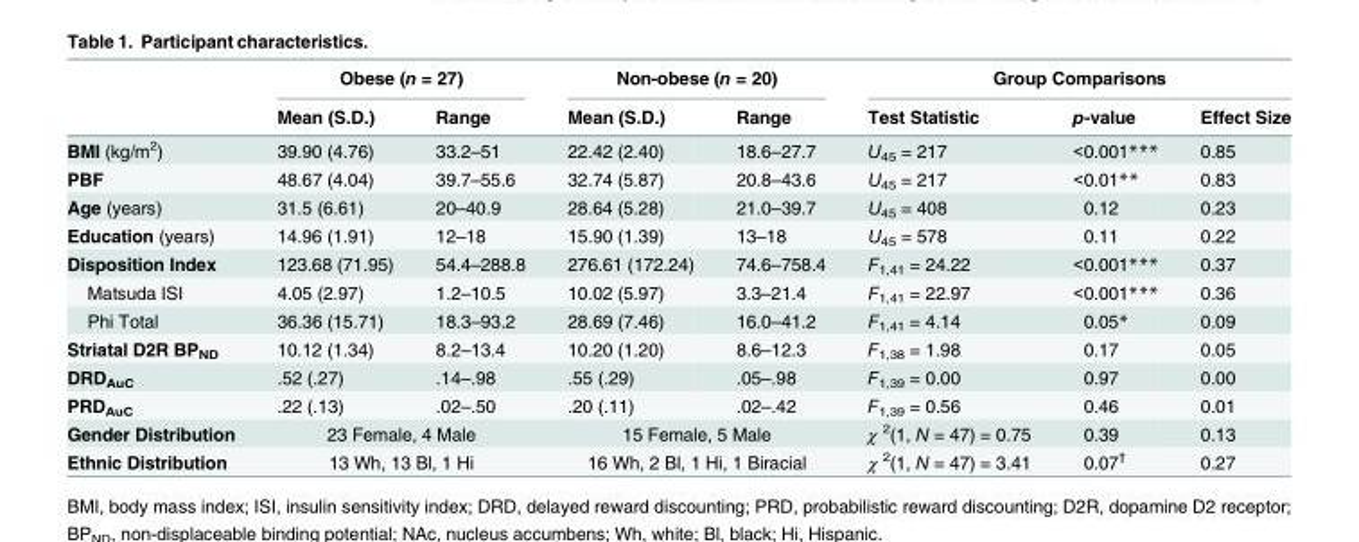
<table><thead><tr><td rowspan="2"></td><td colspan="2">Obese (n = 27)</td><td colspan="2">Non-obese (n = 20)</td><td colspan="3">Group Comparisons</td></tr><tr><td>Mean (S.D.)</td><td>Range</td><td>Mean (S.D.)</td><td>Range</td><td>Test Statistic</td><td>p-value</td><td>Effect Size</td></tr></thead><tbody><tr><td>BMI (kg/m<sup>2</sup>)</td><td>39.90 (4.76)</td><td>33.2–51</td><td>22.42 (2.40)</td><td>18.6–27.7</td><td>U<sub>45</sub> = 217</td><td>&lt;0.001***</td><td>0.85</td></tr><tr><td>PBF</td><td>48.67 (4.04)</td><td>39.7–55.6</td><td>32.74 (5.87)</td><td>20.8–43.6</td><td>U<sub>45</sub> = 217</td><td>&lt;0.01**</td><td>0.83</td></tr><tr><td>Age (years)</td><td>31.5 (6.61)</td><td>20–40.9</td><td>28.64 (5.28)</td><td>21.0–39.7</td><td>U<sub>45</sub> = 408</td><td>0.12</td><td>0.23</td></tr><tr><td>Education (years)</td><td>14.96 (1.91)</td><td>12–18</td><td>15.90 (1.39)</td><td>13–18</td><td>U<sub>45</sub> = 578</td><td>0.11</td><td>0.22</td></tr><tr><td>Disposition Index</td><td>123.68 (71.95)</td><td>54.4–288.8</td><td>276.61 (172.24)</td><td>74.6–758.4</td><td>F<sub>1,41</sub> = 24.22</td><td>&lt;0.001***</td><td>0.37</td></tr><tr><td>Matsuda ISI</td><td>4.05 (2.97)</td><td>1.2–10.5</td><td>10.02 (5.97)</td><td>3.3–21.4</td><td>F<sub>1,41</sub> = 22.97</td><td>&lt;0.001***</td><td>0.36</td></tr><tr><td>Phi Total</td><td>36.36 (15.71)</td><td>18.3–93.2</td><td>28.69 (7.46)</td><td>16.0–41.2</td><td>F<sub>1,41</sub> = 4.14</td><td>0.05*</td><td>0.09</td></tr><tr><td>Striatal D2R BP<sub>ND</sub></td><td>10.12 (1.34)</td><td>8.2–13.4</td><td>10.20 (1.20)</td><td>8.6–12.3</td><td>F<sub>1,38</sub> = 1.98</td><td>0.17</td><td>0.05</td></tr><tr><td>DRD<sub>AuC</sub></td><td>.52 (.27)</td><td>.14–.98</td><td>.55 (.29)</td><td>.05–.98</td><td>F<sub>1,39</sub> = 0.00</td><td>0.97</td><td>0.00</td></tr><tr><td>PRD<sub>AuC</sub></td><td>.22 (.13)</td><td>.02–.50</td><td>.20 (.11)</td><td>.02–.42</td><td>F<sub>1,39</sub> = 0.56</td><td>0.46</td><td>0.01</td></tr><tr><td>Gender Distribution</td><td colspan="2">23 Female, 4 Male</td><td colspan="2">15 Female, 5 Male</td><td>χ <sup>2</sup>(1, N = 47) = 0.75</td><td>0.39</td><td>0.13</td></tr><tr><td>Ethnic Distribution</td><td colspan="2">13 Wh, 13 Bl, 1 Hi</td><td colspan="2">16 Wh, 2 Bl, 1 Hi, 1 Biracial</td><td>χ <sup>2</sup>(1, N = 47) = 3.41</td><td>0.07<sup>†</sup></td><td>0.27</td></tr></tbody></table>